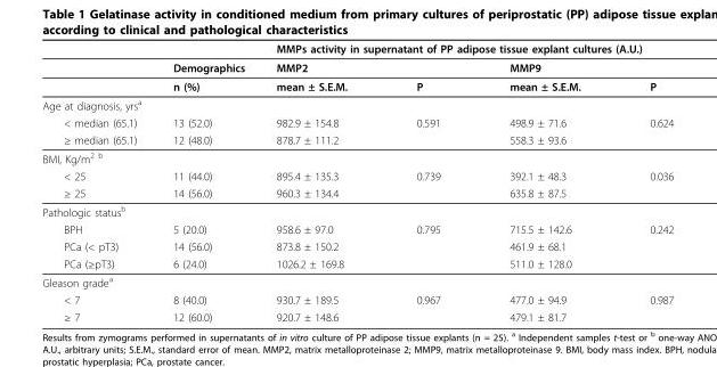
<table><thead><tr><td rowspan="2"></td><td rowspan="2">Demographics</td><td colspan="4">MMPs activity in supernatant of PP adipose tissue explant cultures (A.U.)</td></tr><tr><td>MMP2</td><td></td><td>MMP9</td><td></td></tr></thead><tbody><tr><td></td><td>n (%)</td><td>mean ± S.E.M.</td><td>P</td><td>mean ± S.E.M.</td><td>P</td></tr><tr><td colspan="6">Age at diagnosis, yrs<sup>a</sup></td></tr><tr><td>&lt; median (65.1)</td><td>13 (52.0)</td><td>982.9 ± 154.8</td><td>0.591</td><td>498.9 ± 71.6</td><td>0.624</td></tr><tr><td>≥ median (65.1)</td><td>12 (48.0)</td><td>878.7 ± 111.2</td><td></td><td>558.3 ± 93.6</td><td></td></tr><tr><td colspan="6">BMI, Kg/m<sup>2 b</sup></td></tr><tr><td>&lt; 25</td><td>11 (44.0)</td><td>895.4 ± 135.3</td><td>0.739</td><td>392.1 ± 48.3</td><td>0.036</td></tr><tr><td>≥ 25</td><td>14 (56.0)</td><td>960.3 ± 134.4</td><td></td><td>635.8 ± 87.5</td><td></td></tr><tr><td colspan="6">Pathologic status<sup>b</sup></td></tr><tr><td>BPH</td><td>5 (20.0)</td><td>958.6 ± 97.0</td><td>0.795</td><td>715.5 ± 142.6</td><td>0.242</td></tr><tr><td>PCa (&lt; pT3)</td><td>14 (56.0)</td><td>873.8 ± 150.2</td><td></td><td>461.9 ± 68.1</td><td></td></tr><tr><td>PCa (≥pT3)</td><td>6 (24.0)</td><td>1026.2 ± 169.8</td><td></td><td>511.0 ± 128.0</td><td></td></tr><tr><td colspan="6">Gleason grade<sup>a</sup></td></tr><tr><td>&lt; 7</td><td>8 (40.0)</td><td>930.7 ± 189.5</td><td>0.967</td><td>477.0 ± 94.9</td><td>0.987</td></tr><tr><td>≥ 7</td><td>12 (60.0)</td><td>920.7 ± 148.6</td><td></td><td>479.1 ± 81.7</td><td></td></tr></tbody></table>